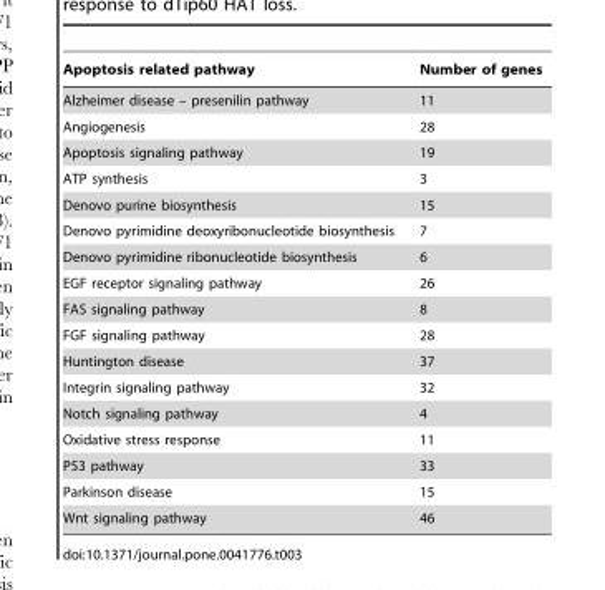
<table><thead><tr><td>Apoptosis related pathway</td><td>Number of genes</td></tr></thead><tbody><tr><td>Alzheimer disease – presenilin pathway</td><td>11</td></tr><tr><td>Angiogenesis</td><td>28</td></tr><tr><td>Apoptosis signaling pathway</td><td>19</td></tr><tr><td>ATP synthesis</td><td>3</td></tr><tr><td>Denovo purine biosynthesis</td><td>15</td></tr><tr><td>Denovo pyrimidine deoxyribonucleotide biosynthesis</td><td>7</td></tr><tr><td>Denovo pyrimidine ribonucleotide biosynthesis</td><td>6</td></tr><tr><td>EGF receptor signaling pathway</td><td>26</td></tr><tr><td>FAS signaling pathway</td><td>8</td></tr><tr><td>FGF signaling pathway</td><td>28</td></tr><tr><td>Huntington disease</td><td>37</td></tr><tr><td>Integrin signaling pathway</td><td>32</td></tr><tr><td>Notch signaling pathway</td><td>4</td></tr><tr><td>Oxidative stress response</td><td>11</td></tr><tr><td>P53 pathway</td><td>33</td></tr><tr><td>Parkinson disease</td><td>15</td></tr><tr><td>Wnt signaling pathway</td><td>46</td></tr></tbody></table>